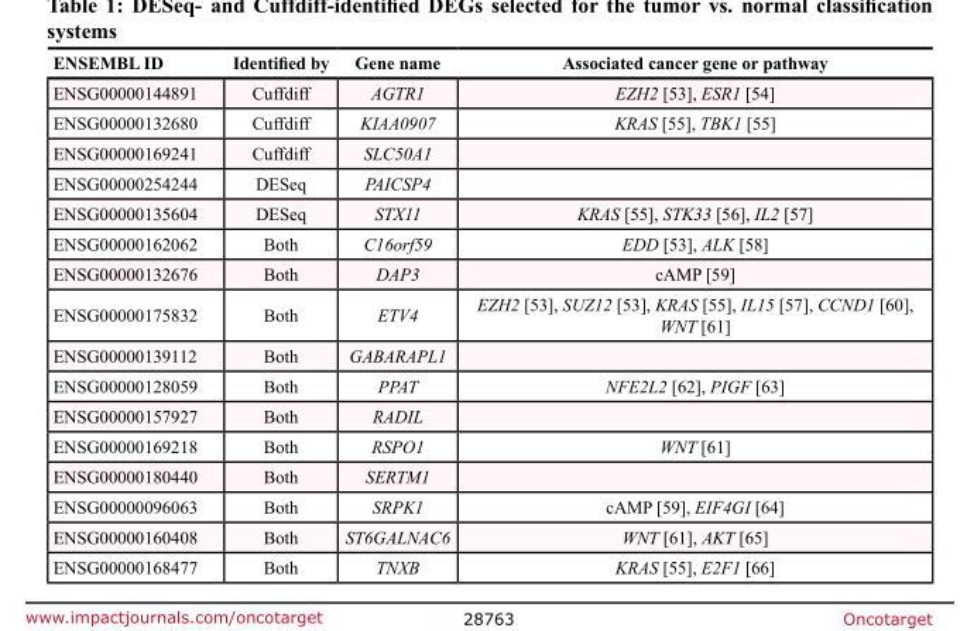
<table><thead><tr><td>ENSEMBL ID</td><td>Identified by</td><td>Gene name</td><td>Associated cancer gene or pathway</td></tr></thead><tbody><tr><td>ENSG00000144891</td><td>Cuffdiff</td><td>AGTR1</td><td>EZH2 [53], ESR1 [54]</td></tr><tr><td>ENSG00000132680</td><td>Cuffdiff</td><td>KIAA0907</td><td>KRAS [55], TBK1 [55]</td></tr><tr><td>ENSG00000169241</td><td>Cuffdiff</td><td>SLC50A1</td><td></td></tr><tr><td>ENSG00000254244</td><td>DESeq</td><td>PAICSP4</td><td></td></tr><tr><td>ENSG00000135604</td><td>DESeq</td><td>STX11</td><td>KRAS [55], STK33 [56], IL2 [57]</td></tr><tr><td>ENSG00000162062</td><td>Both</td><td>C16orf59</td><td>EDD [53], ALK [58]</td></tr><tr><td>ENSG00000132676</td><td>Both</td><td>DAP3</td><td>cAMP [59]</td></tr><tr><td>ENSG00000175832</td><td>Both</td><td>ETV4</td><td>EZH2 [53], SUZ12 [53], KRAS [55], IL15 [57], CCND1 [60], WNT [61]</td></tr><tr><td>ENSG00000139112</td><td>Both</td><td>GABARAPL1</td><td></td></tr><tr><td>ENSG00000128059</td><td>Both</td><td>PPAT</td><td>NFE2L2 [62], PIGF [63]</td></tr><tr><td>ENSG00000157927</td><td>Both</td><td>RADIL</td><td></td></tr><tr><td>ENSG00000169218</td><td>Both</td><td>RSPO1</td><td>WNT [61]</td></tr><tr><td>ENSG00000180440</td><td>Both</td><td>SERTM1</td><td></td></tr><tr><td>ENSG00000096063</td><td>Both</td><td>SRPK1</td><td>cAMP [59], EIF4GI [64]</td></tr><tr><td>ENSG00000160408</td><td>Both</td><td>ST6GALNAC6</td><td>WNT [61], AKT [65]</td></tr><tr><td>ENSG00000168477</td><td>Both</td><td>TNXB</td><td>KRAS [55], E2F1 [66]</td></tr></tbody></table>